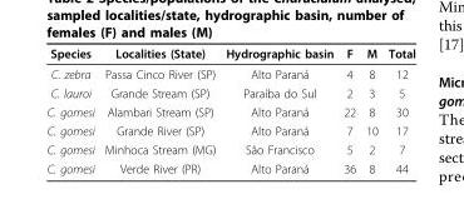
<table><thead><tr><td>Species</td><td>Localities (State)</td><td>Hydrographic basin</td><td>F</td><td>M</td><td>Total</td></tr></thead><tbody><tr><td>C. zebra</td><td>Passa Cinco River (SP)</td><td>Alto Paraná</td><td>4</td><td>8</td><td>12</td></tr><tr><td>C. lauroi</td><td>Grande Stream (SP)</td><td>Paraíba do Sul</td><td>2</td><td>3</td><td>5</td></tr><tr><td>C. gomesi</td><td>Alambari Stream (SP)</td><td>Alto Paraná</td><td>22</td><td>8</td><td>30</td></tr><tr><td>C. gomesi</td><td>Grande River (SP)</td><td>Alto Paraná</td><td>7</td><td>10</td><td>17</td></tr><tr><td>C. gomesi</td><td>Minhoca Stream (MG)</td><td>São Francisco</td><td>5</td><td>2</td><td>7</td></tr><tr><td>C. gomesi</td><td>Verde River (PR)</td><td>Alto Paraná</td><td>36</td><td>8</td><td>44</td></tr></tbody></table>